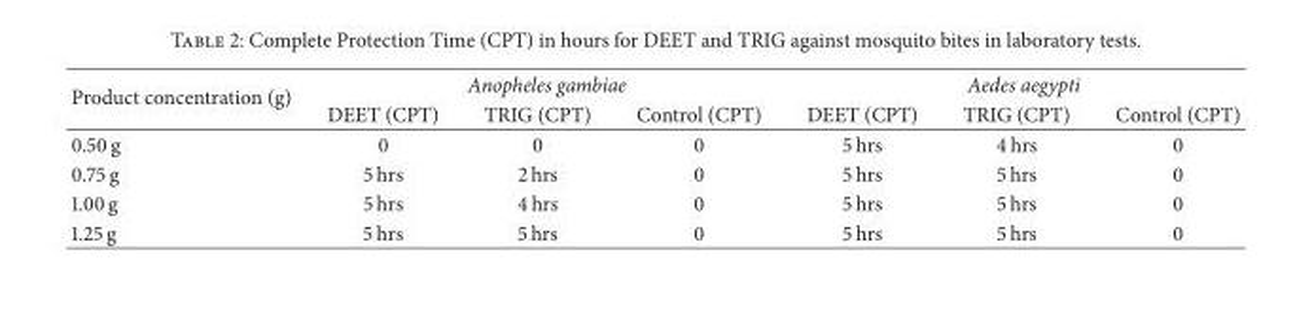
<table><thead><tr><td rowspan="2">Product concentration (g)</td><td colspan="3">Anopheles gambiae</td><td colspan="3">Aedes aegypti</td></tr><tr><td>DEET (CPT)</td><td>TRIG (CPT)</td><td>Control (CPT)</td><td>DEET (CPT)</td><td>TRIG (CPT)</td><td>Control (CPT)</td></tr></thead><tbody><tr><td>0.50 g</td><td>0</td><td>0</td><td>0</td><td>5 hrs</td><td>4 hrs</td><td>0</td></tr><tr><td>0.75 g</td><td>5 hrs</td><td>2 hrs</td><td>0</td><td>5 hrs</td><td>5 hrs</td><td>0</td></tr><tr><td>1.00 g</td><td>5 hrs</td><td>4 hrs</td><td>0</td><td>5 hrs</td><td>5 hrs</td><td>0</td></tr><tr><td>1.25 g</td><td>5 hrs</td><td>5 hrs</td><td>0</td><td>5 hrs</td><td>5 hrs</td><td>0</td></tr></tbody></table>